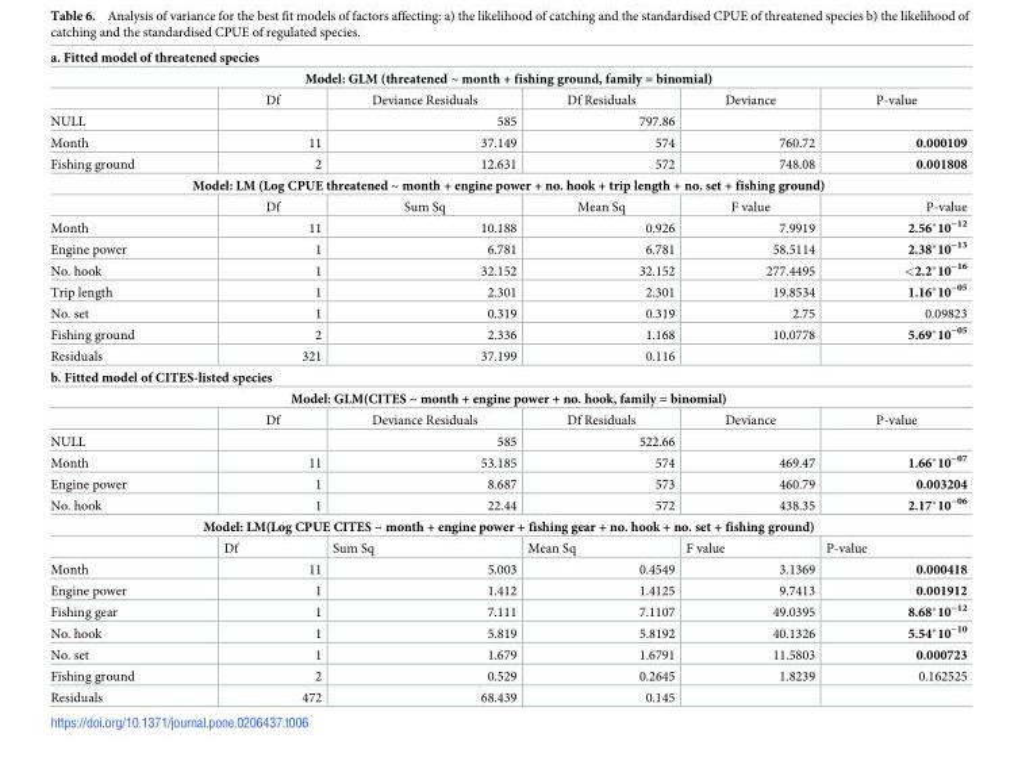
<table><tbody><tr><td colspan="6">a. Fitted model of threatened species</td></tr><tr><td colspan="6">Model: GLM (threatened ~ month + fishing ground, family = binomial)</td></tr><tr><td></td><td>Df</td><td>Deviance Residuals</td><td>Df Residuals</td><td>Deviance</td><td>P-value</td></tr><tr><td>NULL</td><td></td><td>585</td><td>797.86</td><td></td><td></td></tr><tr><td>Month</td><td>11</td><td>37.149</td><td>574</td><td>760.72</td><td>0.000109</td></tr><tr><td>Fishing ground</td><td>2</td><td>12.631</td><td>572</td><td>748.08</td><td>0.001808</td></tr><tr><td colspan="6">Model: LM (Log CPUE threatened ~ month + engine power + no. hook + trip length + no. set + fishing ground)</td></tr><tr><td></td><td>Df</td><td>Sum Sq</td><td>Mean Sq</td><td>F value</td><td>P-value</td></tr><tr><td>Month</td><td>11</td><td>10.188</td><td>0.926</td><td>7.9919</td><td>2.56*10<sup>−12</sup></td></tr><tr><td>Engine power</td><td>1</td><td>6.781</td><td>6.781</td><td>58.5114</td><td>2.38*10<sup>−13</sup></td></tr><tr><td>No. hook</td><td>1</td><td>32.152</td><td>32.152</td><td>277.4495</td><td>&lt;2.2*10<sup>−16</sup></td></tr><tr><td>Trip length</td><td>1</td><td>2.301</td><td>2.301</td><td>19.8534</td><td>1.16*10<sup>−05</sup></td></tr><tr><td>No. set</td><td>1</td><td>0.319</td><td>0.319</td><td>2.75</td><td>0.09823</td></tr><tr><td>Fishing ground</td><td>2</td><td>2.336</td><td>1.168</td><td>10.0778</td><td>5.69*10<sup>−05</sup></td></tr><tr><td>Residuals</td><td>321</td><td>37.199</td><td>0.116</td><td></td><td></td></tr><tr><td colspan="6">b. Fitted model of CITES-listed species</td></tr><tr><td colspan="6">Model: GLM(CITES ~ month + engine power + no. hook, family = binomial)</td></tr><tr><td></td><td>Df</td><td>Deviance Residuals</td><td>Df Residuals</td><td>Deviance</td><td>P-value</td></tr><tr><td>NULL</td><td></td><td>585</td><td>522.66</td><td></td><td></td></tr><tr><td>Month</td><td>11</td><td>53.185</td><td>574</td><td>469.47</td><td>1.66*10<sup>−07</sup></td></tr><tr><td>Engine power</td><td>1</td><td>8.687</td><td>573</td><td>460.79</td><td>0.003204</td></tr><tr><td>No. hook</td><td>1</td><td>22.44</td><td>572</td><td>438.35</td><td>2.17*10<sup>−06</sup></td></tr><tr><td colspan="6">Model: LM(Log CPUE CITES ~ month + engine power + fishing gear + no. hook + no. set + fishing ground)</td></tr><tr><td></td><td>Df</td><td>Sum Sq</td><td>Mean Sq</td><td>F value</td><td>P-value</td></tr><tr><td>Month</td><td>11</td><td>5.003</td><td>0.4549</td><td>3.1369</td><td>0.000418</td></tr><tr><td>Engine power</td><td>1</td><td>1.412</td><td>1.4125</td><td>9.7413</td><td>0.001912</td></tr><tr><td>Fishing gear</td><td>1</td><td>7.111</td><td>7.1107</td><td>49.0395</td><td>8.68*10<sup>−12</sup></td></tr><tr><td>No. hook</td><td>1</td><td>5.819</td><td>5.8192</td><td>40.1326</td><td>5.54*10<sup>−10</sup></td></tr><tr><td>No. set</td><td>1</td><td>1.679</td><td>1.6791</td><td>11.5803</td><td>0.000723</td></tr><tr><td>Fishing ground</td><td>2</td><td>0.529</td><td>0.2645</td><td>1.8239</td><td>0.162525</td></tr><tr><td>Residuals</td><td>472</td><td>68.439</td><td>0.145</td><td></td><td></td></tr></tbody></table>